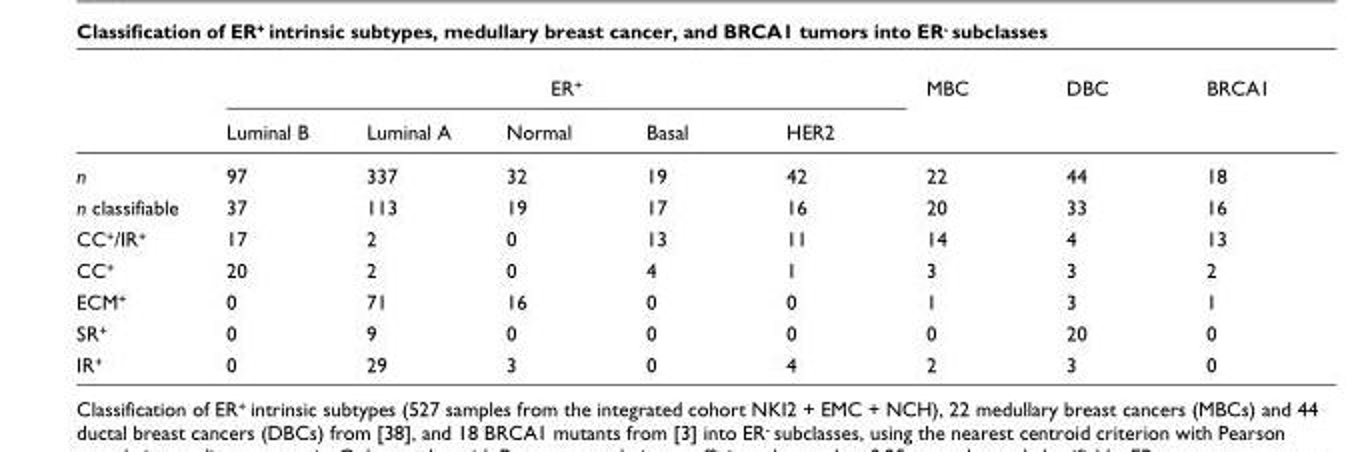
<table><thead><tr><td rowspan="2"></td><td colspan="5">ER<sup>+</sup></td><td rowspan="2">MBC</td><td rowspan="2">DBC</td><td rowspan="2">BRCA1</td></tr><tr><td>Luminal B</td><td>Luminal A</td><td>Normal</td><td>Basal</td><td>HER2</td></tr></thead><tbody><tr><td>n</td><td>97</td><td>337</td><td>32</td><td>19</td><td>42</td><td>22</td><td>44</td><td>18</td></tr><tr><td>n classifiable</td><td>37</td><td>113</td><td>19</td><td>17</td><td>16</td><td>20</td><td>33</td><td>16</td></tr><tr><td>CC<sup>+</sup>/IR<sup>+</sup></td><td>17</td><td>2</td><td>0</td><td>13</td><td>11</td><td>14</td><td>4</td><td>13</td></tr><tr><td>CC<sup>+</sup></td><td>20</td><td>2</td><td>0</td><td>4</td><td>1</td><td>3</td><td>3</td><td>2</td></tr><tr><td>ECM<sup>+</sup></td><td>0</td><td>71</td><td>16</td><td>0</td><td>0</td><td>1</td><td>3</td><td>1</td></tr><tr><td>SR<sup>+</sup></td><td>0</td><td>9</td><td>0</td><td>0</td><td>0</td><td>0</td><td>20</td><td>0</td></tr><tr><td>IR<sup>+</sup></td><td>0</td><td>29</td><td>3</td><td>0</td><td>4</td><td>2</td><td>3</td><td>0</td></tr></tbody></table>